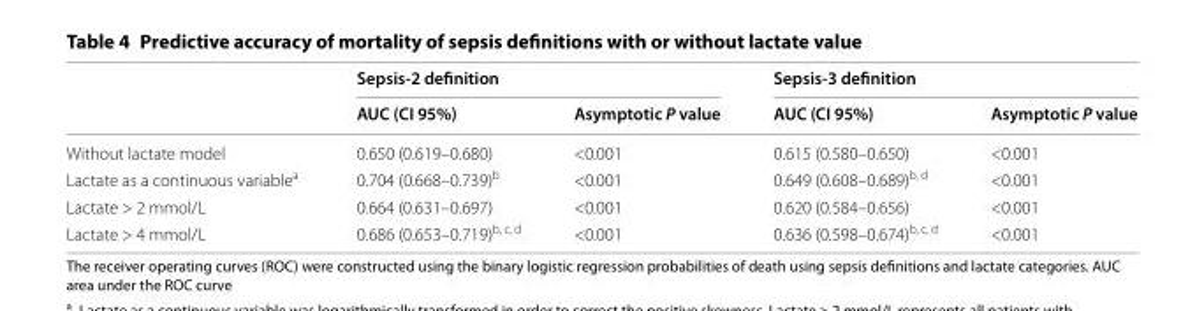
<table><thead><tr><td rowspan="2"></td><td colspan="2">Sepsis-2 definition</td><td colspan="2">Sepsis-3 definition</td></tr><tr><td>AUC (CI 95%)</td><td>Asymptotic P value</td><td>AUC (CI 95%)</td><td>Asymptotic P value</td></tr></thead><tbody><tr><td>Without lactate model</td><td>0.650 (0.619–0.680)</td><td>&lt;0.001</td><td>0.615 (0.580–0.650)</td><td>&lt;0.001</td></tr><tr><td>Lactate as a continuous variable<sup>a</sup></td><td>0.704 (0.668–0.739)<sup>b</sup></td><td>&lt;0.001</td><td>0.649 (0.608–0.689)<sup>b, d</sup></td><td>&lt;0.001</td></tr><tr><td>Lactate &gt; 2 mmol/L</td><td>0.664 (0.631–0.697)</td><td>&lt;0.001</td><td>0.620 (0.584–0.656)</td><td>&lt;0.001</td></tr><tr><td>Lactate &gt; 4 mmol/L</td><td>0.686 (0.653–0.719)<sup>b, c, d</sup></td><td>&lt;0.001</td><td>0.636 (0.598–0.674)<sup>b, c, d</sup></td><td>&lt;0.001</td></tr></tbody></table>